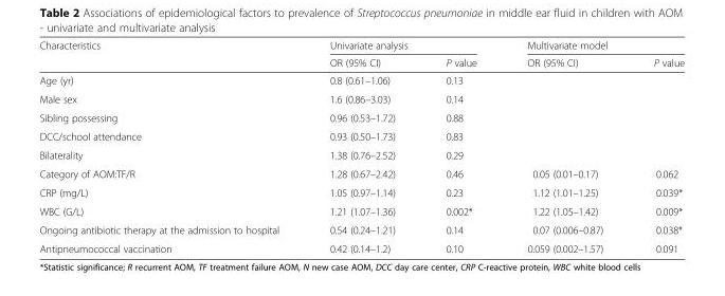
<table><thead><tr><td rowspan="2">Characteristics</td><td colspan="2">Univariate analysis</td><td colspan="2">Multivariate model</td></tr><tr><td>OR (95% CI)</td><td>P value</td><td>OR (95% CI)</td><td>P value</td></tr></thead><tbody><tr><td>Age (yr)</td><td>0.8 (0.61–1.06)</td><td>0.13</td><td></td><td></td></tr><tr><td>Male sex</td><td>1.6 (0.86–3.03)</td><td>0.14</td><td></td><td></td></tr><tr><td>Sibling possessing</td><td>0.96 (0.53–1.72)</td><td>0.88</td><td></td><td></td></tr><tr><td>DCC/school attendance</td><td>0.93 (0.50–1.73)</td><td>0.83</td><td></td><td></td></tr><tr><td>Bilaterality</td><td>1.38 (0.76–2.52)</td><td>0.29</td><td></td><td></td></tr><tr><td>Category of AOM:TF/R</td><td>1.28 (0.67–2.42)</td><td>0.46</td><td>0.05 (0.01–0.17)</td><td>0.062</td></tr><tr><td>CRP (mg/L)</td><td>1.05 (0.97–1.14)</td><td>0.23</td><td>1.12 (1.01–1.25)</td><td>0.039*</td></tr><tr><td>WBC (G/L)</td><td>1.21 (1.07–1.36)</td><td>0.002*</td><td>1.22 (1.05–1.42)</td><td>0.009*</td></tr><tr><td>Ongoing antibiotic therapy at the admission to hospital</td><td>0.54 (0.24–1.21)</td><td>0.14</td><td>0.07 (0.006–0.87)</td><td>0.038*</td></tr><tr><td>Antipneumococcal vaccination</td><td>0.42 (0.14–1.2)</td><td>0.10</td><td>0.059 (0.002–1.57)</td><td>0.091</td></tr></tbody></table>